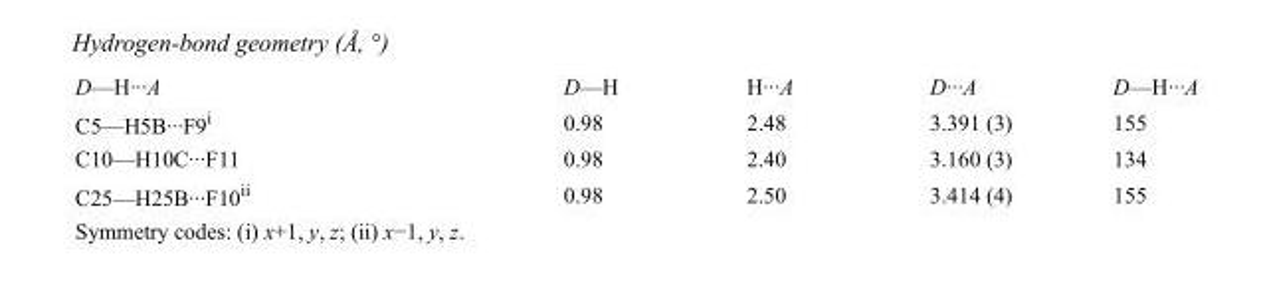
<table><tbody><tr><td>D—H···A</td><td>D—H</td><td>H···A</td><td>D···A</td><td>D—H···A</td></tr><tr><td>C5—H5B···F9<sup>i</sup></td><td>0.98</td><td>2.48</td><td>3.391 (3)</td><td>155</td></tr><tr><td>C10—H10C···F11</td><td>0.98</td><td>2.40</td><td>3.160 (3)</td><td>134</td></tr><tr><td>C25—H25B···F10<sup>ii</sup></td><td>0.98</td><td>2.50</td><td>3.414 (4)</td><td>155</td></tr></tbody></table>